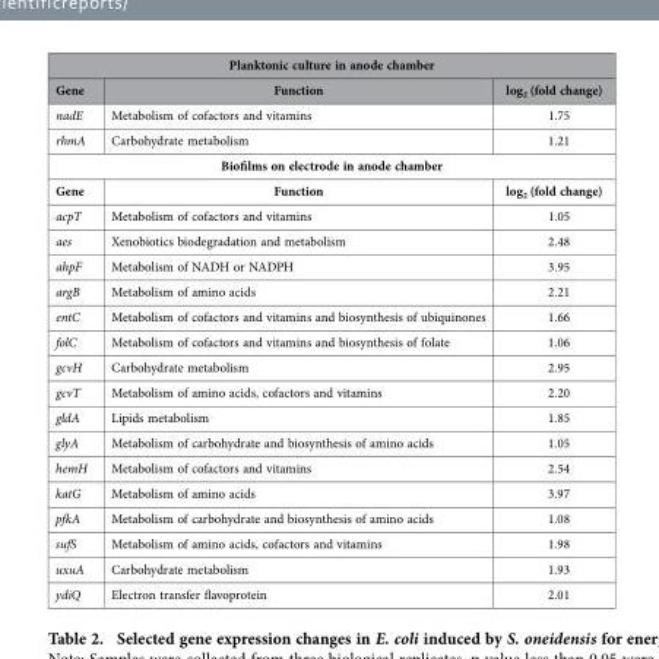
<table><thead><tr><td colspan="3">Planktonic culture in anode chamber</td></tr><tr><td>Gene</td><td>Function</td><td>log<sub>2</sub> (fold change)</td></tr></thead><tbody><tr><td>nadE</td><td>Metabolism of cofactors and vitamins</td><td>1.75</td></tr><tr><td>rhmA</td><td>Carbohydrate metabolism</td><td>1.21</td></tr><tr><td colspan="3">Biofilms on electrode in anode chamber</td></tr><tr><td>Gene</td><td>Function</td><td>log<sub>2</sub> (fold change)</td></tr><tr><td>acpT</td><td>Metabolism of cofactors and vitamins</td><td>1.05</td></tr><tr><td>aes</td><td>Xenobiotics biodegradation and metabolism</td><td>2.48</td></tr><tr><td>ahpF</td><td>Metabolism of NADH or NADPH</td><td>3.95</td></tr><tr><td>argB</td><td>Metabolism of amino acids</td><td>2.21</td></tr><tr><td>entC</td><td>Metabolism of cofactors and vitamins and biosynthesis of ubiquinones</td><td>1.66</td></tr><tr><td>folC</td><td>Metabolism of cofactors and vitamins and biosynthesis of folate</td><td>1.06</td></tr><tr><td>gcvH</td><td>Carbohydrate metabolism</td><td>2.95</td></tr><tr><td>gcvT</td><td>Metabolism of amino acids, cofactors and vitamins</td><td>2.20</td></tr><tr><td>gldA</td><td>Lipids metabolism</td><td>1.85</td></tr><tr><td>glyA</td><td>Metabolism of carbohydrate and biosynthesis of amino acids</td><td>1.05</td></tr><tr><td>hemH</td><td>Metabolism of cofactors and vitamins</td><td>2.54</td></tr><tr><td>katG</td><td>Metabolism of amino acids</td><td>3.97</td></tr><tr><td>pfkA</td><td>Metabolism of carbohydrate and biosynthesis of amino acids</td><td>1.08</td></tr><tr><td>sufS</td><td>Metabolism of amino acids, cofactors and vitamins</td><td>1.98</td></tr><tr><td>uxuA</td><td>Carbohydrate metabolism</td><td>1.93</td></tr><tr><td>ydiQ</td><td>Electron transfer flavoprotein</td><td>2.01</td></tr></tbody></table>